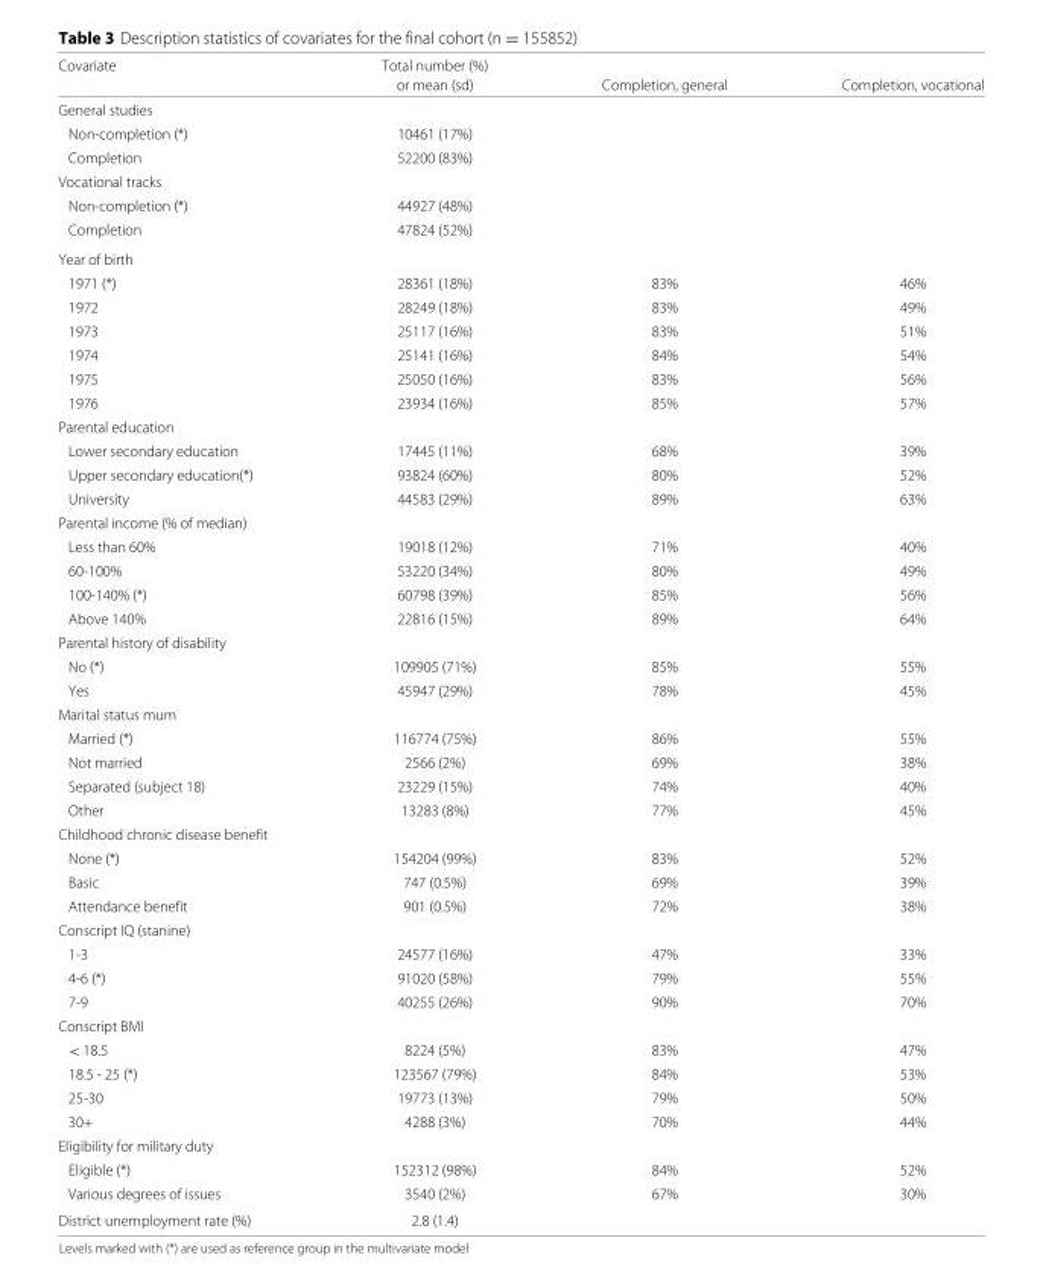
<table><thead><tr><td rowspan="2">Covariate</td><td rowspan="2">Total number (%) or mean (sd)</td><td rowspan="2">Completion, general</td><td rowspan="2">Completion, vocational</td></tr><tr></tr></thead><tbody><tr><td colspan="4">General studies</td></tr><tr><td>Non-completion (*)</td><td>10461 (17%)</td><td></td><td></td></tr><tr><td>Completion</td><td>52200 (83%)</td><td></td><td></td></tr><tr><td colspan="4">Vocational tracks</td></tr><tr><td>Non-completion (*)</td><td>44927 (48%)</td><td></td><td></td></tr><tr><td>Completion</td><td>47824 (52%)</td><td></td><td></td></tr><tr><td colspan="4">Year of birth</td></tr><tr><td>1971 (*)</td><td>28361 (18%)</td><td>83%</td><td>46%</td></tr><tr><td>1972</td><td>28249 (18%)</td><td>83%</td><td>49%</td></tr><tr><td>1973</td><td>25117 (16%)</td><td>83%</td><td>51%</td></tr><tr><td>1974</td><td>25141 (16%)</td><td>84%</td><td>54%</td></tr><tr><td>1975</td><td>25050 (16%)</td><td>83%</td><td>56%</td></tr><tr><td>1976</td><td>23934 (16%)</td><td>85%</td><td>57%</td></tr><tr><td colspan="4">Parental education</td></tr><tr><td>Lower secondary education</td><td>17445 (11%)</td><td>68%</td><td>39%</td></tr><tr><td>Upper secondary education(*)</td><td>93824 (60%)</td><td>80%</td><td>52%</td></tr><tr><td>University</td><td>44583 (29%)</td><td>89%</td><td>63%</td></tr><tr><td colspan="4">Parental income (% of median)</td></tr><tr><td>Less than 60%</td><td>19018 (12%)</td><td>71%</td><td>40%</td></tr><tr><td>60-100%</td><td>53220 (34%)</td><td>80%</td><td>49%</td></tr><tr><td>100-140% (*)</td><td>60798 (39%)</td><td>85%</td><td>56%</td></tr><tr><td>Above 140%</td><td>22816 (15%)</td><td>89%</td><td>64%</td></tr><tr><td colspan="4">Parental history of disability</td></tr><tr><td>No (*)</td><td>109905 (71%)</td><td>85%</td><td>55%</td></tr><tr><td>Yes</td><td>45947 (29%)</td><td>78%</td><td>45%</td></tr><tr><td colspan="4">Marital status mum</td></tr><tr><td>Married (*)</td><td>116774 (75%)</td><td>86%</td><td>55%</td></tr><tr><td>Not married</td><td>2566 (2%)</td><td>69%</td><td>38%</td></tr><tr><td>Separated (subject 18)</td><td>23229 (15%)</td><td>74%</td><td>40%</td></tr><tr><td>Other</td><td>13283 (8%)</td><td>77%</td><td>45%</td></tr><tr><td colspan="4">Childhood chronic disease benefit</td></tr><tr><td>None (*)</td><td>154204 (99%)</td><td>83%</td><td>52%</td></tr><tr><td>Basic</td><td>747 (0.5%)</td><td>69%</td><td>39%</td></tr><tr><td>Attendance benefit</td><td>901 (0.5%)</td><td>72%</td><td>38%</td></tr><tr><td colspan="4">Conscript IQ (stanine)</td></tr><tr><td>1-3</td><td>24577 (16%)</td><td>47%</td><td>33%</td></tr><tr><td>4-6 (*)</td><td>91020 (58%)</td><td>79%</td><td>55%</td></tr><tr><td>7-9</td><td>40255 (26%)</td><td>90%</td><td>70%</td></tr><tr><td colspan="4">Conscript BMI</td></tr><tr><td>&lt; 18.5</td><td>8224 (5%)</td><td>83%</td><td>47%</td></tr><tr><td>18.5 - 25 (*)</td><td>123567 (79%)</td><td>84%</td><td>53%</td></tr><tr><td>25-30</td><td>19773 (13%)</td><td>79%</td><td>50%</td></tr><tr><td>30+</td><td>4288 (3%)</td><td>70%</td><td>44%</td></tr><tr><td colspan="4">Eligibility for military duty</td></tr><tr><td>Eligible (*)</td><td>152312 (98%)</td><td>84%</td><td>52%</td></tr><tr><td>Various degrees of issues</td><td>3540 (2%)</td><td>67%</td><td>30%</td></tr><tr><td>District unemployment rate (%)</td><td>2.8 (1.4)</td><td></td><td></td></tr></tbody></table>